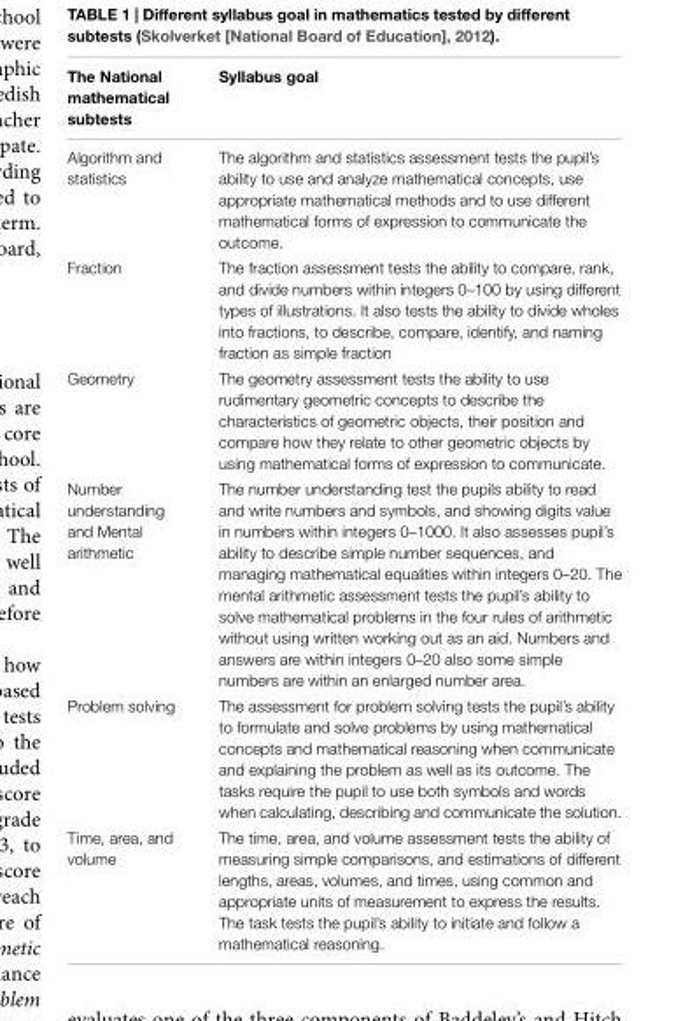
<table><thead><tr><td>The National mathematical subtests</td><td>Syllabus goal</td></tr></thead><tbody><tr><td>Algorithm and statistics</td><td>The algorithm and statistics assessment tests the pupil’s ability to use and analyze mathematical concepts, use appropriate mathematical methods and to use different mathematical forms of expression to communicate the outcome.</td></tr><tr><td>Fraction</td><td>The fraction assessment tests the ability to compare, rank, and divide numbers within integers 0–100 by using different types of illustrations. It also tests the ability to divide wholes into fractions, to describe, compare, identify, and naming fraction as simple fraction</td></tr><tr><td>Geometry</td><td>The geometry assessment tests the ability to use rudimentary geometric concepts to describe the characteristics of geometric objects, their position and compare how they relate to other geometric objects by using mathematical forms of expression to communicate.</td></tr><tr><td>Number understanding and Mental arithmetic</td><td>The number understanding test the pupils ability to read and write numbers and symbols, and showing digits value in numbers within integers 0–1000. It also assesses pupil’s ability to describe simple number sequences, and managing mathematical equalities within integers 0–20. The mental arithmetic assessment tests the pupil’s ability to solve mathematical problems in the four rules of arithmetic without using written working out as an aid. Numbers and answers are within integers 0–20 also some simple numbers are within an enlarged number area.</td></tr><tr><td>Problem solving</td><td>The assessment for problem solving tests the pupil’s ability to formulate and solve problems by using mathematical concepts and mathematical reasoning when communicate and explaining the problem as well as its outcome. The tasks require the pupil to use both symbols and words when calculating, describing and communicate the solution.</td></tr><tr><td>Time, area, and volume</td><td>The time, area, and volume assessment tests the ability of measuring simple comparisons, and estimations of different lengths, areas, volumes, and times, using common and appropriate units of measurement to express the results. The task tests the pupil’s ability to initiate and follow a mathematical reasoning.</td></tr></tbody></table>